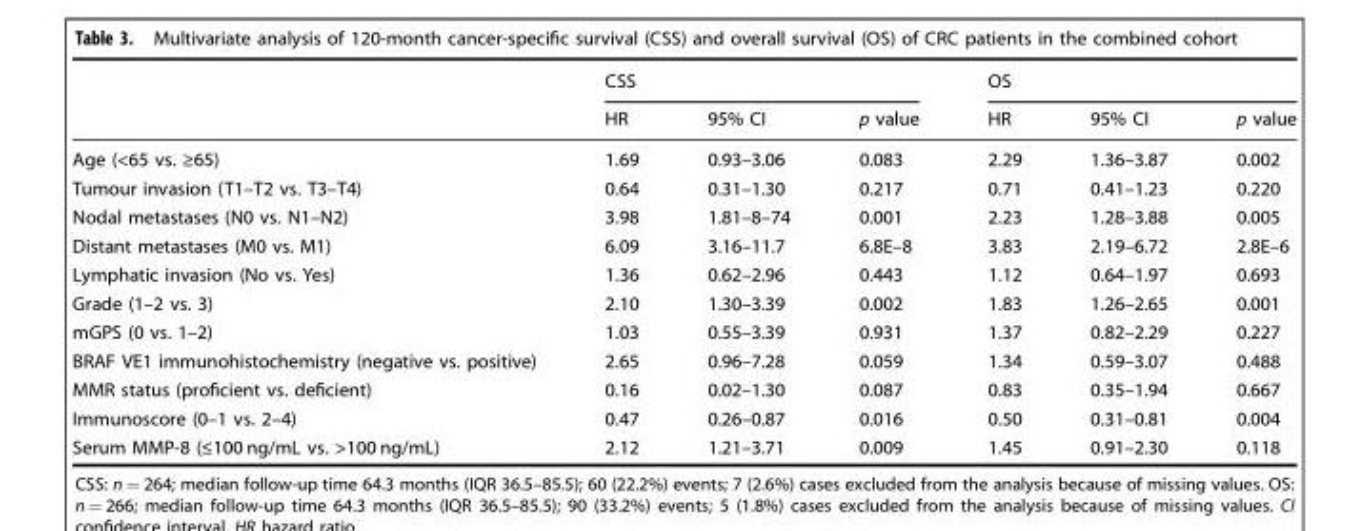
<table><thead><tr><td rowspan="2"></td><td colspan="3">CSS</td><td colspan="3">OS</td></tr><tr><td>HR</td><td>95% CI</td><td>p value</td><td>HR</td><td>95% CI</td><td>p value</td></tr></thead><tbody><tr><td>Age (&lt;65 vs. ≥65)</td><td>1.69</td><td>0.93–3.06</td><td>0.083</td><td>2.29</td><td>1.36–3.87</td><td>0.002</td></tr><tr><td>Tumour invasion (T1–T2 vs. T3–T4)</td><td>0.64</td><td>0.31–1.30</td><td>0.217</td><td>0.71</td><td>0.41–1.23</td><td>0.220</td></tr><tr><td>Nodal metastases (N0 vs. N1–N2)</td><td>3.98</td><td>1.81–8–74</td><td>0.001</td><td>2.23</td><td>1.28–3.88</td><td>0.005</td></tr><tr><td>Distant metastases (M0 vs. M1)</td><td>6.09</td><td>3.16–11.7</td><td>6.8E–8</td><td>3.83</td><td>2.19–6.72</td><td>2.8E–6</td></tr><tr><td>Lymphatic invasion (No vs. Yes)</td><td>1.36</td><td>0.62–2.96</td><td>0.443</td><td>1.12</td><td>0.64–1.97</td><td>0.693</td></tr><tr><td>Grade (1–2 vs. 3)</td><td>2.10</td><td>1.30–3.39</td><td>0.002</td><td>1.83</td><td>1.26–2.65</td><td>0.001</td></tr><tr><td>mGPS (0 vs. 1–2)</td><td>1.03</td><td>0.55–3.39</td><td>0.931</td><td>1.37</td><td>0.82–2.29</td><td>0.227</td></tr><tr><td>BRAF VE1 immunohistochemistry (negative vs. positive)</td><td>2.65</td><td>0.96–7.28</td><td>0.059</td><td>1.34</td><td>0.59–3.07</td><td>0.488</td></tr><tr><td>MMR status (proficient vs. deficient)</td><td>0.16</td><td>0.02–1.30</td><td>0.087</td><td>0.83</td><td>0.35–1.94</td><td>0.667</td></tr><tr><td>Immunoscore (0–1 vs. 2–4)</td><td>0.47</td><td>0.26–0.87</td><td>0.016</td><td>0.50</td><td>0.31–0.81</td><td>0.004</td></tr><tr><td>Serum MMP-8 (≤100 ng/mL vs. &gt;100 ng/mL)</td><td>2.12</td><td>1.21–3.71</td><td>0.009</td><td>1.45</td><td>0.91–2.30</td><td>0.118</td></tr></tbody></table>